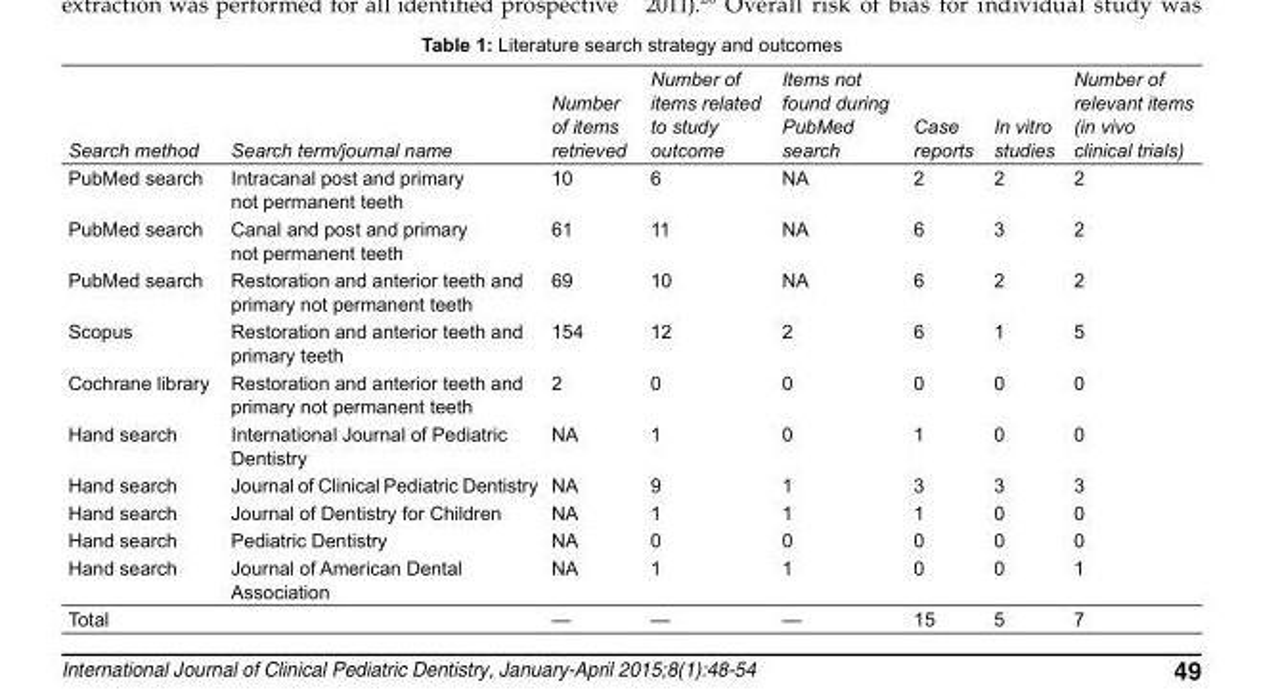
<table><tbody><tr><td>Search method</td><td>Search term/journal name</td><td>Number of items retrieved</td><td>Number of items related to study outcome</td><td>Items not found during PubMed search</td><td>Case reports</td><td>In vitro studies</td><td>Number of relevant items (in vivo clinical trials)</td></tr><tr><td>PubMed search</td><td>Intracanal post and primary not permanent teeth</td><td>10</td><td>6</td><td>NA</td><td>2</td><td>2</td><td>2</td></tr><tr><td>PubMed search</td><td>Canal and post and primary not permanent teeth</td><td>61</td><td>11</td><td>NA</td><td>6</td><td>3</td><td>2</td></tr><tr><td>PubMed search</td><td>Restoration and anterior teeth and primary not permanent teeth</td><td>69</td><td>10</td><td>NA</td><td>6</td><td>2</td><td>2</td></tr><tr><td>Scopus</td><td>Restoration and anterior teeth and primary teeth</td><td>154</td><td>12</td><td>2</td><td>6</td><td>1</td><td>5</td></tr><tr><td>Cochrane library</td><td>Restoration and anterior teeth and primary not permanent teeth</td><td>2</td><td>0</td><td>0</td><td>0</td><td>0</td><td>0</td></tr><tr><td>Hand search</td><td>International Journal of Pediatric Dentistry</td><td>NA</td><td>1</td><td>0</td><td>1</td><td>0</td><td>0</td></tr><tr><td>Hand search</td><td>Journal of Clinical Pediatric Dentistry</td><td>NA</td><td>9</td><td>1</td><td>3</td><td>3</td><td>3</td></tr><tr><td>Hand search</td><td>Journal of Dentistry for Children</td><td>NA</td><td>1</td><td>1</td><td>1</td><td>0</td><td>0</td></tr><tr><td>Hand search</td><td>Pediatric Dentistry</td><td>NA</td><td>0</td><td>0</td><td>0</td><td>0</td><td>0</td></tr><tr><td>Hand search</td><td>Journal of American Dental Association</td><td>NA</td><td>1</td><td>1</td><td>0</td><td>0</td><td>1</td></tr><tr><td>Total</td><td></td><td>—</td><td>—</td><td>—</td><td>15</td><td>5</td><td>7</td></tr></tbody></table>